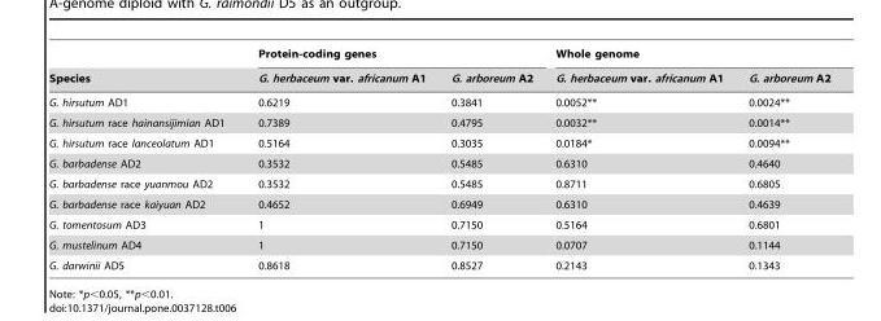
<table><thead><tr><td rowspan="2">Species</td><td colspan="2">Protein-coding genes</td><td colspan="2">Whole genome</td></tr><tr><td>G. herbaceum var. africanum A1</td><td>G. arboreum A2</td><td>G. herbaceum var. africanum A1</td><td>G. arboreum A2</td></tr></thead><tbody><tr><td>G. hirsutum AD1</td><td>0.6219</td><td>0.3841</td><td>0.0052**</td><td>0.0024**</td></tr><tr><td>G. hirsutum race hainansijimian AD1</td><td>0.7389</td><td>0.4795</td><td>0.0032**</td><td>0.0014**</td></tr><tr><td>G. hirsutum race lanceolatum AD1</td><td>0.5164</td><td>0.3035</td><td>0.0184*</td><td>0.0094**</td></tr><tr><td>G. barbadense AD2</td><td>0.3532</td><td>0.5485</td><td>0.6310</td><td>0.4640</td></tr><tr><td>G. barbadense race yuanmou AD2</td><td>0.3532</td><td>0.5485</td><td>0.8711</td><td>0.6805</td></tr><tr><td>G. barbadense race kaiyuan AD2</td><td>0.4652</td><td>0.6949</td><td>0.6310</td><td>0.4639</td></tr><tr><td>G. tomentosum AD3</td><td>1</td><td>0.7150</td><td>0.5164</td><td>0.6801</td></tr><tr><td>G. mustelinum AD4</td><td>1</td><td>0.7150</td><td>0.0707</td><td>0.1144</td></tr><tr><td>G. darwinii AD5</td><td>0.8618</td><td>0.8527</td><td>0.2143</td><td>0.1343</td></tr></tbody></table>